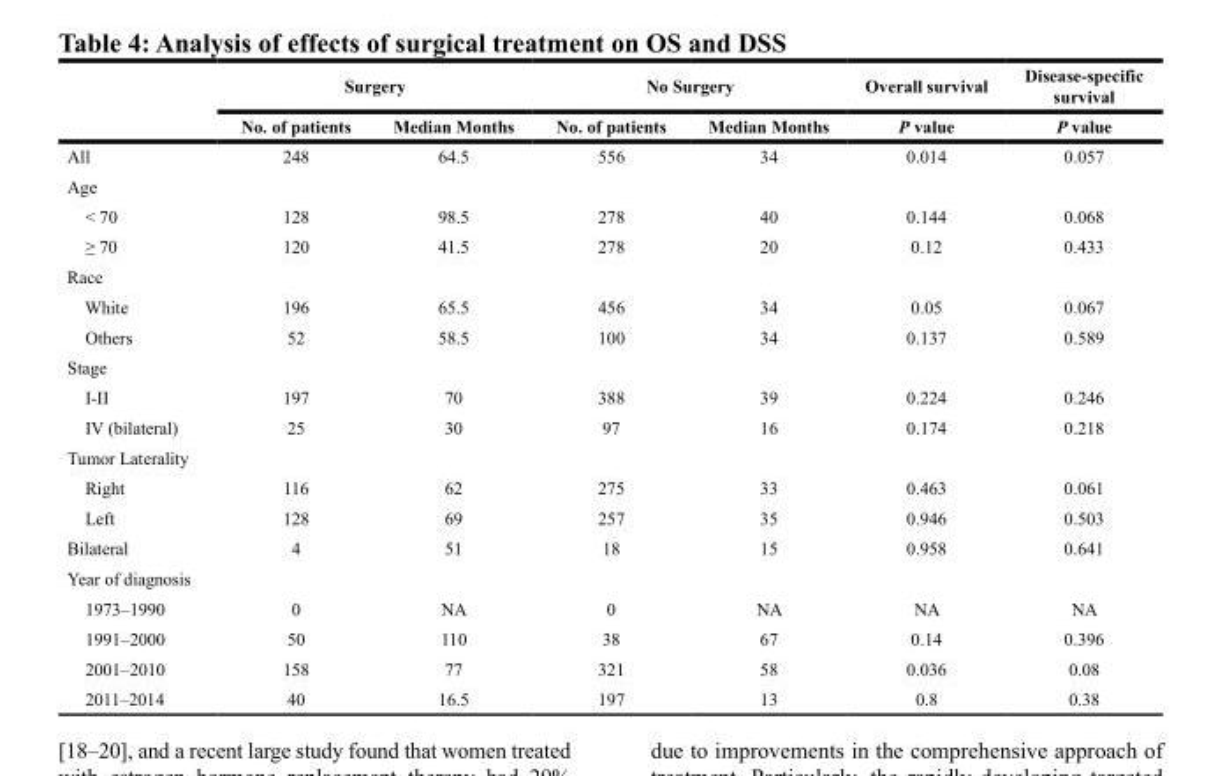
<table><thead><tr><td rowspan="2"></td><td colspan="2">Surgery</td><td colspan="2">No Surgery</td><td rowspan="2">Overall survival P value</td><td rowspan="2">Disease-specific survival P value</td></tr><tr><td>No. of patients</td><td>Median Months</td><td>No. of patients</td><td>Median Months</td></tr></thead><tbody><tr><td>All</td><td>248</td><td>64.5</td><td>556</td><td>34</td><td>0.014</td><td>0.057</td></tr><tr><td colspan="7">Age</td></tr><tr><td>&lt; 70</td><td>128</td><td>98.5</td><td>278</td><td>40</td><td>0.144</td><td>0.068</td></tr><tr><td>≥ 70</td><td>120</td><td>41.5</td><td>278</td><td>20</td><td>0.12</td><td>0.433</td></tr><tr><td colspan="7">Race</td></tr><tr><td>White</td><td>196</td><td>65.5</td><td>456</td><td>34</td><td>0.05</td><td>0.067</td></tr><tr><td>Others</td><td>52</td><td>58.5</td><td>100</td><td>34</td><td>0.137</td><td>0.589</td></tr><tr><td colspan="7">Stage</td></tr><tr><td>I-II</td><td>197</td><td>70</td><td>388</td><td>39</td><td>0.224</td><td>0.246</td></tr><tr><td>IV (bilateral)</td><td>25</td><td>30</td><td>97</td><td>16</td><td>0.174</td><td>0.218</td></tr><tr><td colspan="7">Tumor Laterality</td></tr><tr><td>Right</td><td>116</td><td>62</td><td>275</td><td>33</td><td>0.463</td><td>0.061</td></tr><tr><td>Left</td><td>128</td><td>69</td><td>257</td><td>35</td><td>0.946</td><td>0.503</td></tr><tr><td>Bilateral</td><td>4</td><td>51</td><td>18</td><td>15</td><td>0.958</td><td>0.641</td></tr><tr><td colspan="7">Year of diagnosis</td></tr><tr><td>1973–1990</td><td>0</td><td>NA</td><td>0</td><td>NA</td><td>NA</td><td>NA</td></tr><tr><td>1991–2000</td><td>50</td><td>110</td><td>38</td><td>67</td><td>0.14</td><td>0.396</td></tr><tr><td>2001–2010</td><td>158</td><td>77</td><td>321</td><td>58</td><td>0.036</td><td>0.08</td></tr><tr><td>2011–2014</td><td>40</td><td>16.5</td><td>197</td><td>13</td><td>0.8</td><td>0.38</td></tr></tbody></table>